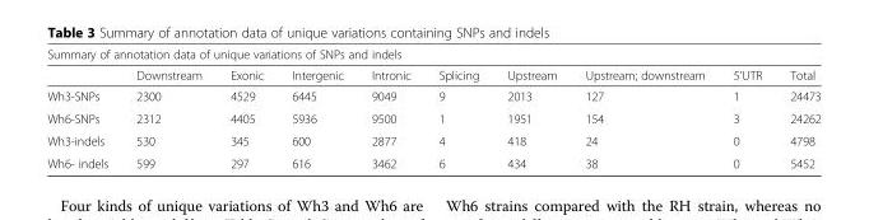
<table><thead><tr><td colspan="10">Summary of annotation data of unique variations of SNPs and indels</td></tr><tr><td></td><td>Downstream</td><td>Exonic</td><td>Intergenic</td><td>Intronic</td><td>Splicing</td><td>Upstream</td><td>Upstream; downstream</td><td>5’UTR</td><td>Total</td></tr></thead><tbody><tr><td>Wh3-SNPs</td><td>2300</td><td>4529</td><td>6445</td><td>9049</td><td>9</td><td>2013</td><td>127</td><td>1</td><td>24473</td></tr><tr><td>Wh6-SNPs</td><td>2312</td><td>4405</td><td>5936</td><td>9500</td><td>1</td><td>1951</td><td>154</td><td>3</td><td>24262</td></tr><tr><td>Wh3-indels</td><td>530</td><td>345</td><td>600</td><td>2877</td><td>4</td><td>418</td><td>24</td><td>0</td><td>4798</td></tr><tr><td>Wh6- indels</td><td>599</td><td>297</td><td>616</td><td>3462</td><td>6</td><td>434</td><td>38</td><td>0</td><td>5452</td></tr></tbody></table>